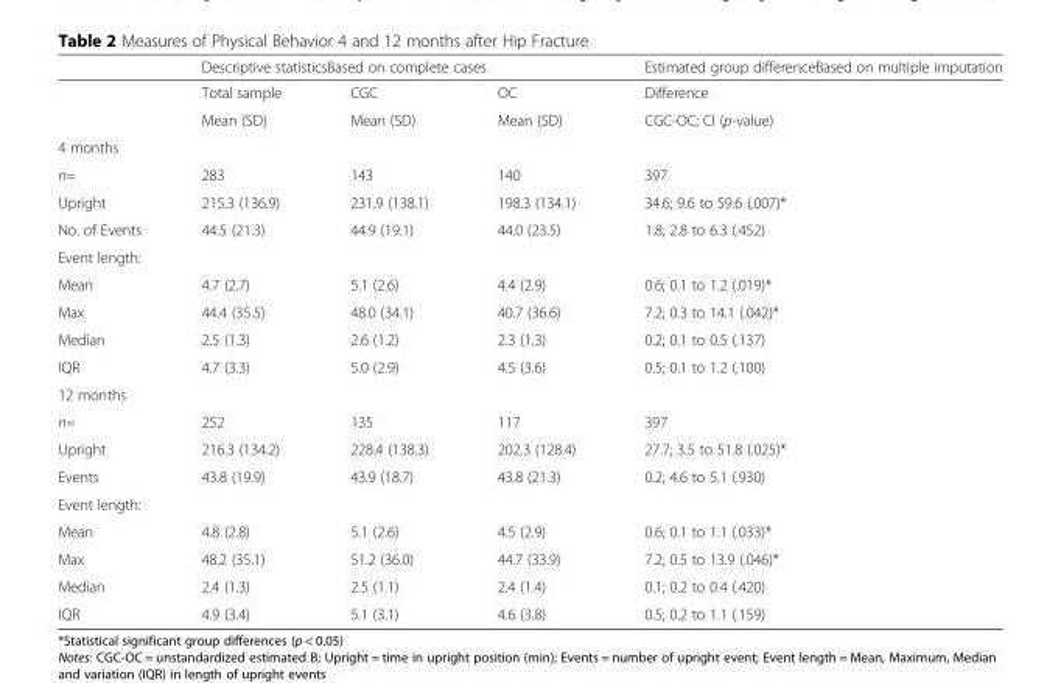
<table><thead><tr><td rowspan="2"></td><td colspan="3">Descriptive statisticsBased on complete cases</td><td rowspan="2">Estimated group differenceBased on multiple imputation Difference</td></tr><tr><td>Total sample</td><td>CGC</td><td>OC</td></tr></thead><tbody><tr><td></td><td>Mean (SD)</td><td>Mean (SD)</td><td>Mean (SD)</td><td>CGC-OC; CI (p-value)</td></tr><tr><td colspan="5">4 months</td></tr><tr><td>n=</td><td>283</td><td>143</td><td>140</td><td>397</td></tr><tr><td>Upright</td><td>215.3 (136.9)</td><td>231.9 (138.1)</td><td>198.3 (134.1)</td><td>34.6; 9.6 to 59.6 (.007)*</td></tr><tr><td>No. of Events</td><td>44.5 (21.3)</td><td>44.9 (19.1)</td><td>44.0 (23.5)</td><td>1.8; 2.8 to 6.3 (.452)</td></tr><tr><td colspan="5">Event length:</td></tr><tr><td>Mean</td><td>4.7 (2.7)</td><td>5.1 (2.6)</td><td>4.4 (2.9)</td><td>0.6; 0.1 to 1.2 (.019)*</td></tr><tr><td>Max</td><td>44.4 (35.5)</td><td>48.0 (34.1)</td><td>40.7 (36.6)</td><td>7.2; 0.3 to 14.1 (.042)*</td></tr><tr><td>Median</td><td>2.5 (1.3)</td><td>2.6 (1.2)</td><td>2.3 (1.3)</td><td>0.2; 0.1 to 0.5 (.137)</td></tr><tr><td>IQR</td><td>4.7 (3.3)</td><td>5.0 (2.9)</td><td>4.5 (3.6)</td><td>0.5; 0.1 to 1.2 (.100)</td></tr><tr><td colspan="5">12 months</td></tr><tr><td>n=</td><td>252</td><td>135</td><td>117</td><td>397</td></tr><tr><td>Upright</td><td>216.3 (134.2)</td><td>228.4 (138.3)</td><td>202.3 (128.4)</td><td>27.7; 3.5 to 51.8 (.025)*</td></tr><tr><td>Events</td><td>43.8 (19.9)</td><td>43.9 (18.7)</td><td>43.8 (21.3)</td><td>0.2; 4.6 to 5.1 (.930)</td></tr><tr><td colspan="5">Event length:</td></tr><tr><td>Mean</td><td>4.8 (2.8)</td><td>5.1 (2.6)</td><td>4.5 (2.9)</td><td>0.6; 0.1 to 1.1 (.033)*</td></tr><tr><td>Max</td><td>48.2 (35.1)</td><td>51.2 (36.0)</td><td>44.7 (33.9)</td><td>7.2; 0.5 to 13.9 (.046)*</td></tr><tr><td>Median</td><td>2.4 (1.3)</td><td>2.5 (1.1)</td><td>2.4 (1.4)</td><td>0.1; 0.2 to 0.4 (.420)</td></tr><tr><td>IQR</td><td>4.9 (3.4)</td><td>5.1 (3.1)</td><td>4.6 (3.8)</td><td>0.5; 0.2 to 1.1 (.159)</td></tr></tbody></table>